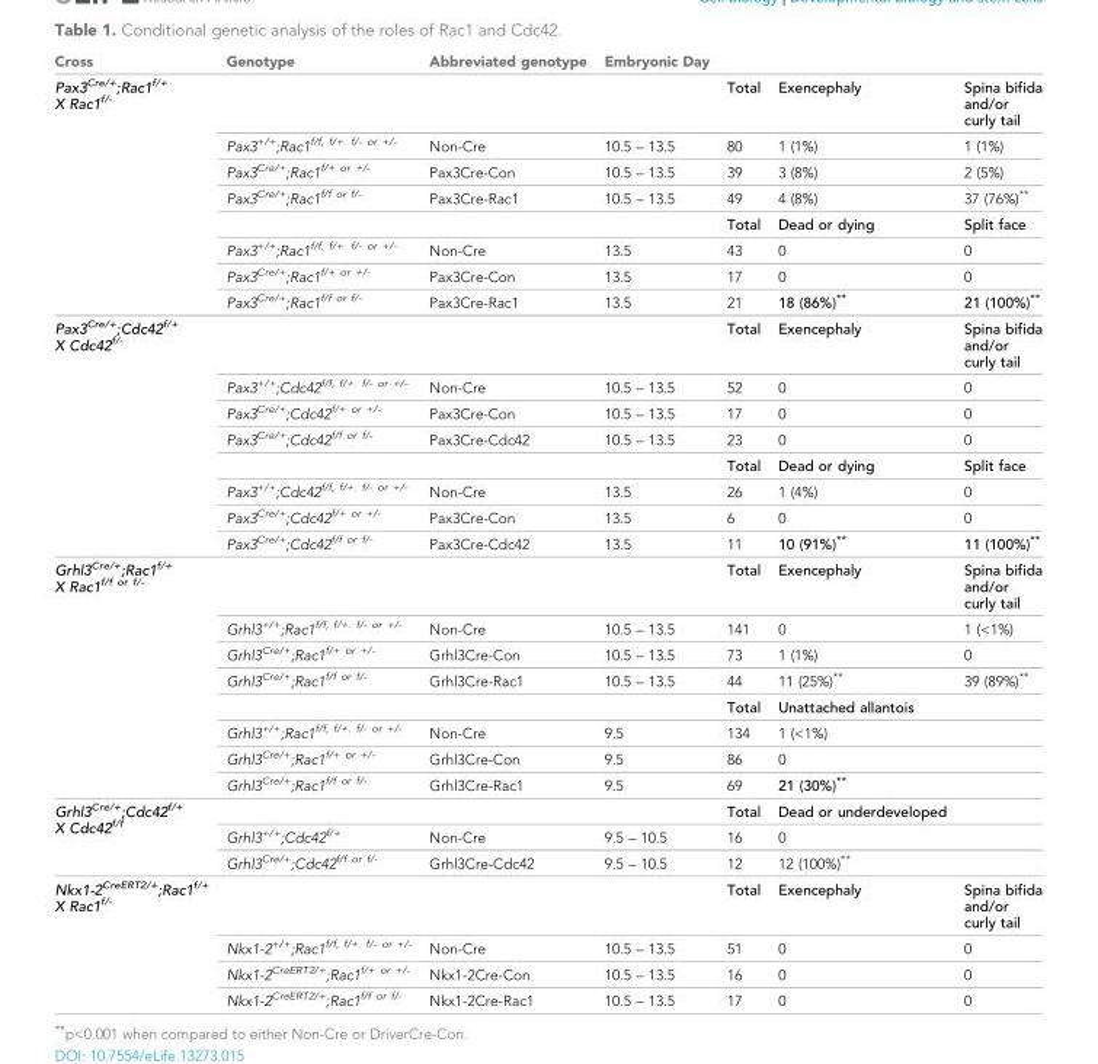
<table><thead><tr><td>Cross</td><td>Genotype</td><td>Abbreviated genotype</td><td>Embryonic Day</td><td></td><td></td><td></td></tr></thead><tbody><tr><td rowspan="8">Pax3<sup>Cre/+</sup>;Rac1<sup>f/+</sup> X Rac1<sup>f/-</sup></td><td></td><td></td><td></td><td>Total</td><td>Exencephaly</td><td>Spina bifida and/or curly tail</td></tr><tr><td>Pax3<sup>+/+</sup>;Rac1<sup>f/f, f/+. f/- or +/-</sup></td><td>Non-Cre</td><td>10.5 – 13.5</td><td>80</td><td>1 (1%)</td><td>1 (1%)</td></tr><tr><td>Pax3<sup>Cre/+</sup>;Rac1<sup>f/+ or +/-</sup></td><td>Pax3Cre-Con</td><td>10.5 – 13.5</td><td>39</td><td>3 (8%)</td><td>2 (5%)</td></tr><tr><td>Pax3<sup>Cre/+</sup>;Rac1<sup>f/f or f/-</sup></td><td>Pax3Cre-Rac1</td><td>10.5 – 13.5</td><td>49</td><td>4 (8%)</td><td>37 (76%)**</td></tr><tr><td></td><td></td><td></td><td>Total</td><td>Dead or dying</td><td>Split face</td></tr><tr><td>Pax3<sup>+/+</sup>;Rac1<sup>f/f, f/+. f/- or +/-</sup></td><td>Non-Cre</td><td>13.5</td><td>43</td><td>0</td><td>0</td></tr><tr><td>Pax3<sup>Cre/+</sup>;Rac1<sup>f/+ or +/-</sup></td><td>Pax3Cre-Con</td><td>13.5</td><td>17</td><td>0</td><td>0</td></tr><tr><td>Pax3<sup>Cre/+</sup>;Rac1<sup>f/f or f/-</sup></td><td>Pax3Cre-Rac1</td><td>13.5</td><td>21</td><td>18 (86%)**</td><td>21 (100%)**</td></tr><tr><td rowspan="8">Pax3<sup>Cre/+</sup>;Cdc42<sup>f/+</sup> X Cdc42<sup>f/-</sup></td><td></td><td></td><td></td><td>Total</td><td>Exencephaly</td><td>Spina bifida and/or curly tail</td></tr><tr><td>Pax3<sup>+/+</sup>;Cdc42<sup>f/f, f/+. f/- or +/-</sup></td><td>Non-Cre</td><td>10.5 – 13.5</td><td>52</td><td>0</td><td>0</td></tr><tr><td>Pax3<sup>Cre/+</sup>;Cdc42<sup>f/+ or +/-</sup></td><td>Pax3Cre-Con</td><td>10.5 – 13.5</td><td>17</td><td>0</td><td>0</td></tr><tr><td>Pax3<sup>Cre/+</sup>;Cdc42<sup>f/f or f/-</sup></td><td>Pax3Cre-Cdc42</td><td>10.5 – 13.5</td><td>23</td><td>0</td><td>0</td></tr><tr><td></td><td></td><td></td><td>Total</td><td>Dead or dying</td><td>Split face</td></tr><tr><td>Pax3<sup>+/+</sup>;Cdc42<sup>f/f, f/+. f/- or +/-</sup></td><td>Non-Cre</td><td>13.5</td><td>26</td><td>1 (4%)</td><td>0</td></tr><tr><td>Pax3<sup>Cre/+</sup>;Cdc42<sup>f/+ or +/-</sup></td><td>Pax3Cre-Con</td><td>13.5</td><td>6</td><td>0</td><td>0</td></tr><tr><td>Pax3<sup>Cre/+</sup>;Cdc42<sup>f/f or f/-</sup></td><td>Pax3Cre-Cdc42</td><td>13.5</td><td>11</td><td>10 (91%)**</td><td>11 (100%)**</td></tr><tr><td rowspan="8">Grhl3<sup>Cre/+</sup>;Rac1<sup>f/+</sup> X Rac1<sup>f/f or f/-</sup></td><td></td><td></td><td></td><td>Total</td><td>Exencephaly</td><td>Spina bifida and/or curly tail</td></tr><tr><td>Grhl3<sup>+/+</sup>;Rac1<sup>f/f, f/+. f/- or +/-</sup></td><td>Non-Cre</td><td>10.5 – 13.5</td><td>141</td><td>0</td><td>1 (&lt;1%)</td></tr><tr><td>Grhl3<sup>Cre/+</sup>;Rac1<sup>f/+ or +/-</sup></td><td>Grhl3Cre-Con</td><td>10.5 – 13.5</td><td>73</td><td>1 (1%)</td><td>0</td></tr><tr><td>Grhl3<sup>Cre/+</sup>;Rac1<sup>f/f or f/-</sup></td><td>Grhl3Cre-Rac1</td><td>10.5 – 13.5</td><td>44</td><td>11 (25%)**</td><td>39 (89%)**</td></tr><tr><td></td><td></td><td></td><td>Total</td><td>Unattached allantois</td><td></td></tr><tr><td>Grhl3<sup>+/+</sup>;Rac1<sup>f/f, f/+. f/- or +/-</sup></td><td>Non-Cre</td><td>9.5</td><td>134</td><td>1 (&lt;1%)</td><td></td></tr><tr><td>Grhl3<sup>Cre/+</sup>;Rac1<sup>f/+ or +/-</sup></td><td>Grhl3Cre-Con</td><td>9.5</td><td>86</td><td>0</td><td></td></tr><tr><td>Grhl3<sup>Cre/+</sup>;Rac1<sup>f/f or f/-</sup></td><td>Grhl3Cre-Rac1</td><td>9.5</td><td>69</td><td>21 (30%)**</td><td></td></tr><tr><td rowspan="3">Grhl3<sup>Cre/+</sup>;Cdc42<sup>f/+</sup> X Cdc42<sup>f/f</sup></td><td></td><td></td><td></td><td>Total</td><td>Dead or underdeveloped</td><td></td></tr><tr><td>Grhl3<sup>+/+</sup>;Cdc42<sup>f/+</sup></td><td>Non-Cre</td><td>9.5 – 10.5</td><td>16</td><td>0</td><td></td></tr><tr><td>Grhl3<sup>Cre/+</sup>;Cdc42<sup>f/f or f/-</sup></td><td>Grhl3Cre-Cdc42</td><td>9.5 – 10.5</td><td>12</td><td>12 (100%)**</td><td></td></tr><tr><td rowspan="4">Nkx1-2<sup>CreERT2/+</sup>;Rac1<sup>f/+</sup> X Rac1<sup>f/-</sup></td><td></td><td></td><td></td><td>Total</td><td>Exencephaly</td><td>Spina bifida and/or curly tail</td></tr><tr><td>Nkx1-2<sup>+/+</sup>;Rac1<sup>f/f, f/+. f/- or +/-</sup></td><td>Non-Cre</td><td>10.5 – 13.5</td><td>51</td><td>0</td><td>0</td></tr><tr><td>Nkx1-2<sup>CreERT2/+</sup>;Rac1<sup>f/+ or +/-</sup></td><td>Nkx1-2Cre-Con</td><td>10.5 – 13.5</td><td>16</td><td>0</td><td>0</td></tr><tr><td>Nkx1-2<sup>CreERT2/+</sup>;Rac1<sup>f/f or f/-</sup></td><td>Nkx1-2Cre-Rac1</td><td>10.5 – 13.5</td><td>17</td><td>0</td><td>0</td></tr></tbody></table>